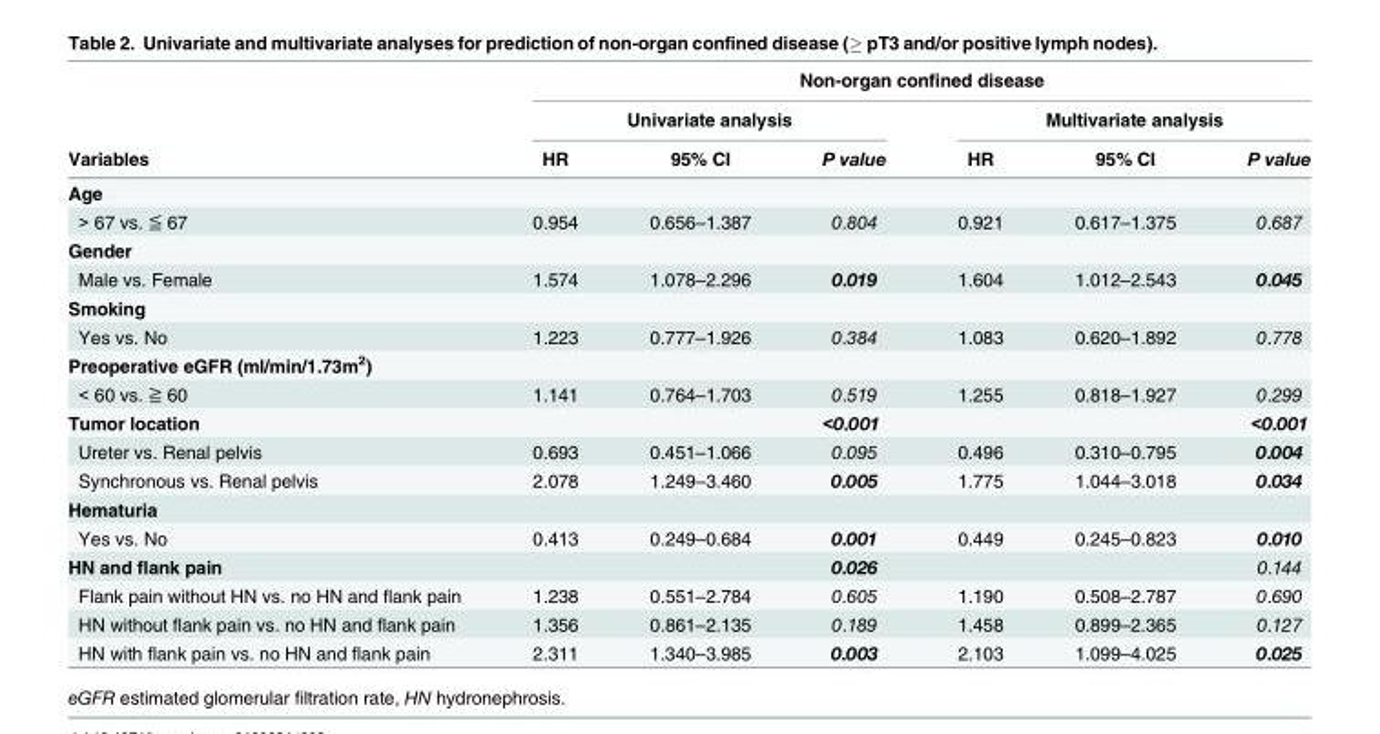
<table><thead><tr><td rowspan="3">Variables</td><td colspan="6">Non-organ confined disease</td></tr><tr><td colspan="3">Univariate analysis</td><td colspan="3">Multivariate analysis</td></tr><tr><td>HR</td><td>95% CI</td><td>P value</td><td>HR</td><td>95% CI</td><td>P value</td></tr></thead><tbody><tr><td colspan="7">Age</td></tr><tr><td>&gt; 67 vs. ≦ 67</td><td>0.954</td><td>0.656–1.387</td><td>0.804</td><td>0.921</td><td>0.617–1.375</td><td>0.687</td></tr><tr><td colspan="7">Gender</td></tr><tr><td>Male vs. Female</td><td>1.574</td><td>1.078–2.296</td><td>0.019</td><td>1.604</td><td>1.012–2.543</td><td>0.045</td></tr><tr><td colspan="7">Smoking</td></tr><tr><td>Yes vs. No</td><td>1.223</td><td>0.777–1.926</td><td>0.384</td><td>1.083</td><td>0.620–1.892</td><td>0.778</td></tr><tr><td colspan="7">Preoperative eGFR (ml/min/1.73m<sup>2</sup>)</td></tr><tr><td>&lt; 60 vs. ≧ 60</td><td>1.141</td><td>0.764–1.703</td><td>0.519</td><td>1.255</td><td>0.818–1.927</td><td>0.299</td></tr><tr><td>Tumor location</td><td></td><td></td><td>&lt;0.001</td><td></td><td></td><td>&lt;0.001</td></tr><tr><td>Ureter vs. Renal pelvis</td><td>0.693</td><td>0.451–1.066</td><td>0.095</td><td>0.496</td><td>0.310–0.795</td><td>0.004</td></tr><tr><td>Synchronous vs. Renal pelvis</td><td>2.078</td><td>1.249–3.460</td><td>0.005</td><td>1.775</td><td>1.044–3.018</td><td>0.034</td></tr><tr><td colspan="7">Hematuria</td></tr><tr><td>Yes vs. No</td><td>0.413</td><td>0.249–0.684</td><td>0.001</td><td>0.449</td><td>0.245–0.823</td><td>0.010</td></tr><tr><td>HN and flank pain</td><td></td><td></td><td>0.026</td><td></td><td></td><td>0.144</td></tr><tr><td>Flank pain without HN vs. no HN and flank pain</td><td>1.238</td><td>0.551–2.784</td><td>0.605</td><td>1.190</td><td>0.508–2.787</td><td>0.690</td></tr><tr><td>HN without flank pain vs. no HN and flank pain</td><td>1.356</td><td>0.861–2.135</td><td>0.189</td><td>1.458</td><td>0.899–2.365</td><td>0.127</td></tr><tr><td>HN with flank pain vs. no HN and flank pain</td><td>2.311</td><td>1.340–3.985</td><td>0.003</td><td>2.103</td><td>1.099–4.025</td><td>0.025</td></tr></tbody></table>